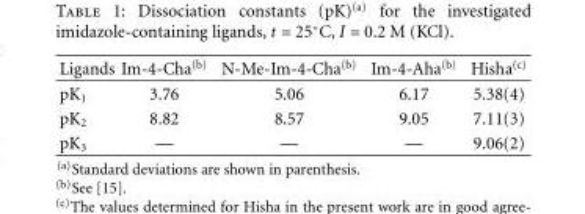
<table><thead><tr><td>Ligands</td><td>Im-4-Cha<sup>(b)</sup></td><td>N-Me-Im-4-Cha<sup>(b)</sup></td><td>Im-4-Aha<sup>(b)</sup></td><td>Hisha<sup>(c)</sup></td></tr></thead><tbody><tr><td>pK<sub>1</sub></td><td>3.76</td><td>5.06</td><td>6.17</td><td>5.38(4)</td></tr><tr><td>pK<sub>2</sub></td><td>8.82</td><td>8.57</td><td>9.05</td><td>7.11(3)</td></tr><tr><td>pK<sub>3</sub></td><td>—</td><td>—</td><td>—</td><td>9.06(2)</td></tr></tbody></table>